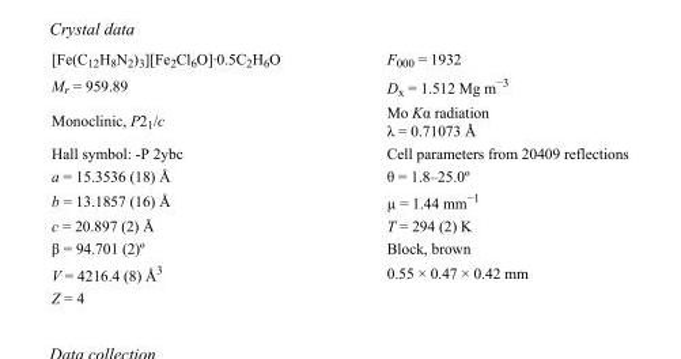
<table><tbody><tr><td>[Fe(C<sub>12</sub>H<sub>8</sub>N<sub>2</sub>)<sub>3</sub>][Fe<sub>2</sub>Cl<sub>6</sub>O]·0.5C<sub>2</sub>H<sub>6</sub>O</td><td>F<sub>000</sub> = 1932</td></tr><tr><td>M<sub>r</sub> = 959.89</td><td>D<sub>x</sub> = 1.512 Mg m<sup>−3</sup></td></tr><tr><td>Monoclinic, P2<sub>1</sub>/c</td><td>Mo Kα radiation λ = 0.71073 Å</td></tr><tr><td>Hall symbol: -P 2ybc</td><td>Cell parameters from 20409 reflections</td></tr><tr><td>a = 15.3536 (18) Å</td><td>θ = 1.8–25.0º</td></tr><tr><td>b = 13.1857 (16) Å</td><td>µ = 1.44 mm<sup>−1</sup></td></tr><tr><td>c = 20.897 (2) Å</td><td>T = 294 (2) K</td></tr><tr><td>β = 94.701 (2)º</td><td>Block, brown</td></tr><tr><td>V = 4216.4 (8) Å<sup>3</sup></td><td>0.55 × 0.47 × 0.42 mm</td></tr><tr><td>Z = 4</td><td></td></tr></tbody></table>